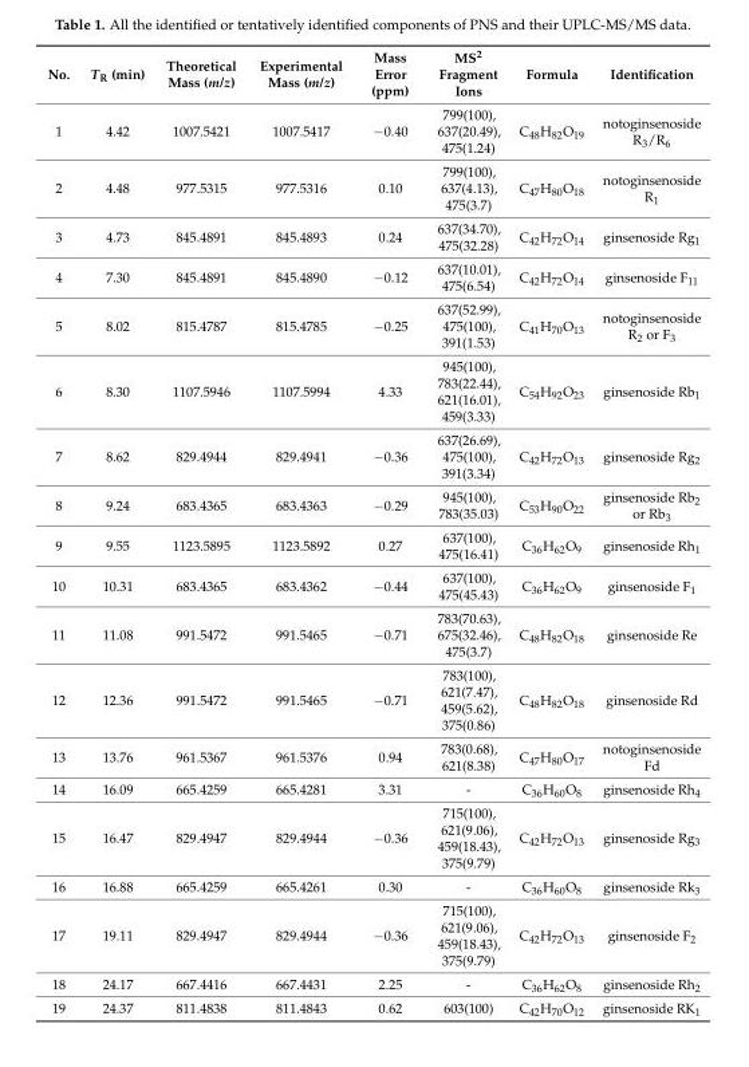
<table><thead><tr><td>No.</td><td>T<sub>R</sub> (min)</td><td>Theoretical Mass (m/z)</td><td>Experimental Mass (m/z)</td><td>Mass Error (ppm)</td><td>MS<sup>2</sup> Fragment Ions</td><td>Formula</td><td>Identification</td></tr></thead><tbody><tr><td>1</td><td>4.42</td><td>1007.5421</td><td>1007.5417</td><td>−0.40</td><td>799(100), 637(20.49), 475(1.24)</td><td>C<sub>48</sub>H<sub>82</sub>O<sub>19</sub></td><td>notoginsenoside R<sub>3</sub>/R<sub>6</sub></td></tr><tr><td>2</td><td>4.48</td><td>977.5315</td><td>977.5316</td><td>0.10</td><td>799(100), 637(4.13), 475(3.7)</td><td>C<sub>47</sub>H<sub>80</sub>O<sub>18</sub></td><td>notoginsenoside R<sub>1</sub></td></tr><tr><td>3</td><td>4.73</td><td>845.4891</td><td>845.4893</td><td>0.24</td><td>637(34.70), 475(32.28)</td><td>C<sub>42</sub>H<sub>72</sub>O<sub>14</sub></td><td>ginsenoside Rg<sub>1</sub></td></tr><tr><td>4</td><td>7.30</td><td>845.4891</td><td>845.4890</td><td>−0.12</td><td>637(10.01), 475(6.54)</td><td>C<sub>42</sub>H<sub>72</sub>O<sub>14</sub></td><td>ginsenoside F<sub>11</sub></td></tr><tr><td>5</td><td>8.02</td><td>815.4787</td><td>815.4785</td><td>−0.25</td><td>637(52.99), 475(100), 391(1.53)</td><td>C<sub>41</sub>H<sub>70</sub>O<sub>13</sub></td><td>notoginsenoside R<sub>2</sub> or F<sub>3</sub></td></tr><tr><td>6</td><td>8.30</td><td>1107.5946</td><td>1107.5994</td><td>4.33</td><td>945(100), 783(22.44), 621(16.01), 459(3.33)</td><td>C<sub>54</sub>H<sub>92</sub>O<sub>23</sub></td><td>ginsenoside Rb<sub>1</sub></td></tr><tr><td>7</td><td>8.62</td><td>829.4944</td><td>829.4941</td><td>−0.36</td><td>637(26.69), 475(100), 391(3.34)</td><td>C<sub>42</sub>H<sub>72</sub>O<sub>13</sub></td><td>ginsenoside Rg<sub>2</sub></td></tr><tr><td>8</td><td>9.24</td><td>683.4365</td><td>683.4363</td><td>−0.29</td><td>945(100), 783(35.03)</td><td>C<sub>53</sub>H<sub>90</sub>O<sub>22</sub></td><td>ginsenoside Rb<sub>2</sub> or Rb<sub>3</sub></td></tr><tr><td>9</td><td>9.55</td><td>1123.5895</td><td>1123.5892</td><td>0.27</td><td>637(100), 475(16.41)</td><td>C<sub>36</sub>H<sub>62</sub>O<sub>9</sub></td><td>ginsenoside Rh<sub>1</sub></td></tr><tr><td>10</td><td>10.31</td><td>683.4365</td><td>683.4362</td><td>−0.44</td><td>637(100), 475(45.43)</td><td>C<sub>36</sub>H<sub>62</sub>O<sub>9</sub></td><td>ginsenoside F<sub>1</sub></td></tr><tr><td>11</td><td>11.08</td><td>991.5472</td><td>991.5465</td><td>−0.71</td><td>783(70.63), 675(32.46), 475(3.7)</td><td>C<sub>48</sub>H<sub>82</sub>O<sub>18</sub></td><td>ginsenoside Re</td></tr><tr><td>12</td><td>12.36</td><td>991.5472</td><td>991.5465</td><td>−0.71</td><td>783(100), 621(7.47), 459(5.62), 375(0.86)</td><td>C<sub>48</sub>H<sub>82</sub>O<sub>18</sub></td><td>ginsenoside Rd</td></tr><tr><td>13</td><td>13.76</td><td>961.5367</td><td>961.5376</td><td>0.94</td><td>783(0.68), 621(8.38)</td><td>C<sub>47</sub>H<sub>80</sub>O<sub>17</sub></td><td>notoginsenoside Fd</td></tr><tr><td>14</td><td>16.09</td><td>665.4259</td><td>665.4281</td><td>3.31</td><td>-</td><td>C<sub>36</sub>H<sub>60</sub>O<sub>8</sub></td><td>ginsenoside Rh<sub>4</sub></td></tr><tr><td>15</td><td>16.47</td><td>829.4947</td><td>829.4944</td><td>−0.36</td><td>715(100), 621(9.06), 459(18.43), 375(9.79)</td><td>C<sub>42</sub>H<sub>72</sub>O<sub>13</sub></td><td>ginsenoside Rg<sub>3</sub></td></tr><tr><td>16</td><td>16.88</td><td>665.4259</td><td>665.4261</td><td>0.30</td><td>-</td><td>C<sub>36</sub>H<sub>60</sub>O<sub>8</sub></td><td>ginsenoside Rk<sub>3</sub></td></tr><tr><td>17</td><td>19.11</td><td>829.4947</td><td>829.4944</td><td>−0.36</td><td>715(100), 621(9.06), 459(18.43), 375(9.79)</td><td>C<sub>42</sub>H<sub>72</sub>O<sub>13</sub></td><td>ginsenoside F<sub>2</sub></td></tr><tr><td>18</td><td>24.17</td><td>667.4416</td><td>667.4431</td><td>2.25</td><td>-</td><td>C<sub>36</sub>H<sub>62</sub>O<sub>8</sub></td><td>ginsenoside Rh<sub>2</sub></td></tr><tr><td>19</td><td>24.37</td><td>811.4838</td><td>811.4843</td><td>0.62</td><td>603(100)</td><td>C<sub>42</sub>H<sub>70</sub>O<sub>12</sub></td><td>ginsenoside RK<sub>1</sub></td></tr></tbody></table>